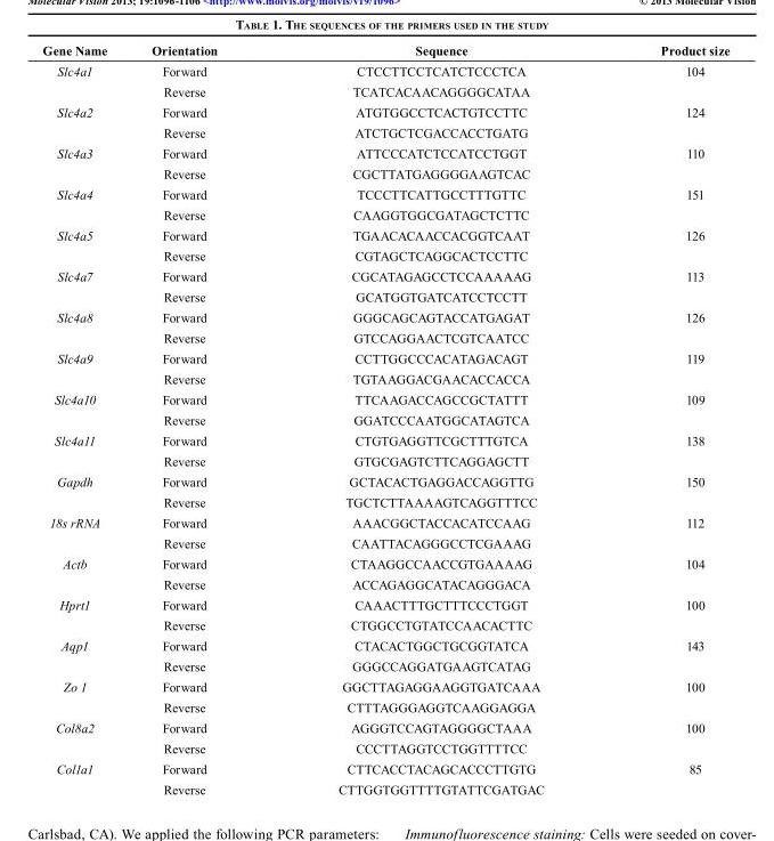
<table><thead><tr><td>Gene Name</td><td>Orientation</td><td>Sequence</td><td>Product size</td></tr></thead><tbody><tr><td rowspan="2">Slc4a1</td><td>Forward</td><td>CTCCTTCCTCATCTCCCTCA</td><td>104</td></tr><tr><td>Reverse</td><td>TCATCACAACAGGGGCATAA</td><td></td></tr><tr><td rowspan="2">Slc4a2</td><td>Forward</td><td>ATGTGGCCTCACTGTCCTTC</td><td>124</td></tr><tr><td>Reverse</td><td>ATCTGCTCGACCACCTGATG</td><td></td></tr><tr><td rowspan="2">Slc4a3</td><td>Forward</td><td>ATTCCCATCTCCATCCTGGT</td><td>110</td></tr><tr><td>Reverse</td><td>CGCTTATGAGGGGAAGTCAC</td><td></td></tr><tr><td rowspan="2">Slc4a4</td><td>Forward</td><td>TCCCTTCATTGCCTTTGTTC</td><td>151</td></tr><tr><td>Reverse</td><td>CAAGGTGGCGATAGCTCTTC</td><td></td></tr><tr><td rowspan="2">Slc4a5</td><td>Forward</td><td>TGAACACAACCACGGTCAAT</td><td>126</td></tr><tr><td>Reverse</td><td>CGTAGCTCAGGCACTCCTTC</td><td></td></tr><tr><td rowspan="2">Slc4a7</td><td>Forward</td><td>CGCATAGAGCCTCCAAAAAG</td><td>113</td></tr><tr><td>Reverse</td><td>GCATGGTGATCATCCTCCTT</td><td></td></tr><tr><td rowspan="2">Slc4a8</td><td>Forward</td><td>GGGCAGCAGTACCATGAGAT</td><td>126</td></tr><tr><td>Reverse</td><td>GTCCAGGAACTCGTCAATCC</td><td></td></tr><tr><td rowspan="2">Slc4a9</td><td>Forward</td><td>CCTTGGCCCACATAGACAGT</td><td>119</td></tr><tr><td>Reverse</td><td>TGTAAGGACGAACACCACCA</td><td></td></tr><tr><td rowspan="2">Slc4a10</td><td>Forward</td><td>TTCAAGACCAGCCGCTATTT</td><td>109</td></tr><tr><td>Reverse</td><td>GGATCCCAATGGCATAGTCA</td><td></td></tr><tr><td rowspan="2">Slc4a11</td><td>Forward</td><td>CTGTGAGGTTCGCTTTGTCA</td><td>138</td></tr><tr><td>Reverse</td><td>GTGCGAGTCTTCAGGAGCTT</td><td></td></tr><tr><td rowspan="2">Gapdh</td><td>Forward</td><td>GCTACACTGAGGACCAGGTTG</td><td>150</td></tr><tr><td>Reverse</td><td>TGCTCTTAAAAGTCAGGTTTCC</td><td></td></tr><tr><td rowspan="2">18s rRNA</td><td>Forward</td><td>AAACGGCTACCACATCCAAG</td><td>112</td></tr><tr><td>Reverse</td><td>CAATTACAGGGCCTCGAAAG</td><td></td></tr><tr><td rowspan="2">Actb</td><td>Forward</td><td>CTAAGGCCAACCGTGAAAAG</td><td>104</td></tr><tr><td>Reverse</td><td>ACCAGAGGCATACAGGGACA</td><td></td></tr><tr><td rowspan="2">Hprt1</td><td>Forward</td><td>CAAACTTTGCTTTCCCTGGT</td><td>100</td></tr><tr><td>Reverse</td><td>CTGGCCTGTATCCAACACTTC</td><td></td></tr><tr><td rowspan="2">Aqp1</td><td>Forward</td><td>CTACACTGGCTGCGGTATCA</td><td>143</td></tr><tr><td>Reverse</td><td>GGGCCAGGATGAAGTCATAG</td><td></td></tr><tr><td rowspan="2">Zo 1</td><td>Forward</td><td>GGCTTAGAGGAAGGTGATCAAA</td><td>100</td></tr><tr><td>Reverse</td><td>CTTTAGGGAGGTCAAGGAGGA</td><td></td></tr><tr><td rowspan="2">Col8a2</td><td>Forward</td><td>AGGGTCCAGTAGGGGCTAAA</td><td>100</td></tr><tr><td>Reverse</td><td>CCCTTAGGTCCTGGTTTTCC</td><td></td></tr><tr><td rowspan="2">Col1a1</td><td>Forward</td><td>CTTCACCTACAGCACCCTTGTG</td><td>85</td></tr><tr><td>Reverse</td><td>CTTGGTGGTTTTGTATTCGATGAC</td><td></td></tr></tbody></table>